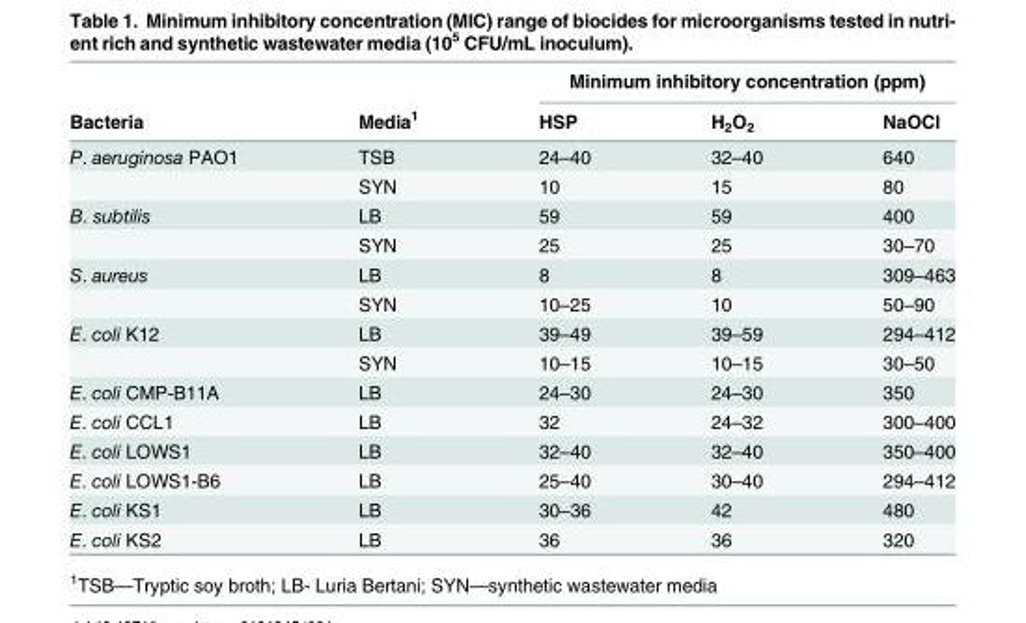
<table><thead><tr><td rowspan="2">Bacteria</td><td rowspan="2">Media<sup>1</sup></td><td colspan="3">Minimum inhibitory concentration (ppm)</td></tr><tr><td>HSP</td><td>H<sub>2</sub>O<sub>2</sub></td><td>NaOCl</td></tr></thead><tbody><tr><td rowspan="2">P. aeruginosa PAO1</td><td>TSB</td><td>24–40</td><td>32–40</td><td>640</td></tr><tr><td>SYN</td><td>10</td><td>15</td><td>80</td></tr><tr><td rowspan="2">B. subtilis</td><td>LB</td><td>59</td><td>59</td><td>400</td></tr><tr><td>SYN</td><td>25</td><td>25</td><td>30–70</td></tr><tr><td rowspan="2">S. aureus</td><td>LB</td><td>8</td><td>8</td><td>309–463</td></tr><tr><td>SYN</td><td>10–25</td><td>10</td><td>50–90</td></tr><tr><td rowspan="2">E. coli K12</td><td>LB</td><td>39–49</td><td>39–59</td><td>294–412</td></tr><tr><td>SYN</td><td>10–15</td><td>10–15</td><td>30–50</td></tr><tr><td>E. coli CMP-B11A</td><td>LB</td><td>24–30</td><td>24–30</td><td>350</td></tr><tr><td>E. coli CCL1</td><td>LB</td><td>32</td><td>24–32</td><td>300–400</td></tr><tr><td>E. coli LOWS1</td><td>LB</td><td>32–40</td><td>32–40</td><td>350–400</td></tr><tr><td>E. coli LOWS1-B6</td><td>LB</td><td>25–40</td><td>30–40</td><td>294–412</td></tr><tr><td>E. coli KS1</td><td>LB</td><td>30–36</td><td>42</td><td>480</td></tr><tr><td>E. coli KS2</td><td>LB</td><td>36</td><td>36</td><td>320</td></tr></tbody></table>